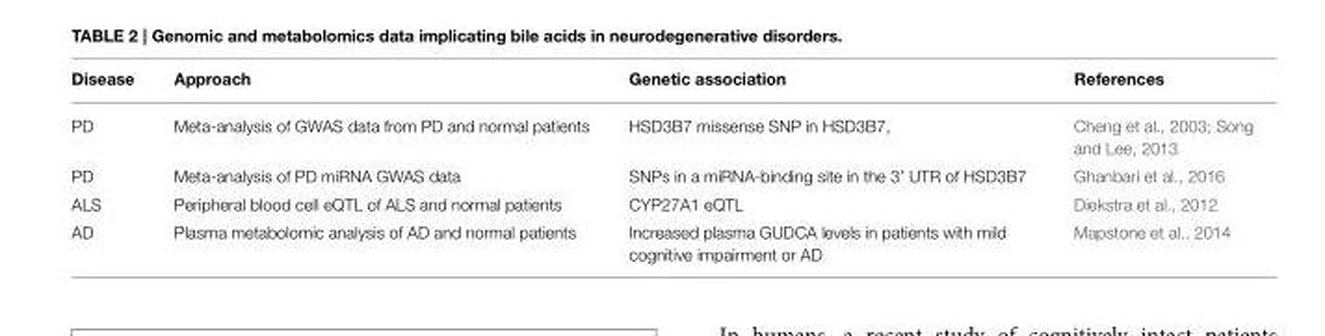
<table><thead><tr><td>Disease</td><td>Approach</td><td>Genetic association</td><td>References</td></tr></thead><tbody><tr><td>PD</td><td>Meta-analysis of GWAS data from PD and normal patients</td><td>HSD3B7 missense SNP in HSD3B7,</td><td>Cheng et al., 2003; Song and Lee, 2013</td></tr><tr><td>PD</td><td>Meta-analysis of PD miRNA GWAS data</td><td>SNPs in a miRNA-binding site in the 3’ UTR of HSD3B7</td><td>Ghanbari et al., 2016</td></tr><tr><td>ALS</td><td>Peripheral blood cell eQTL of ALS and normal patients</td><td>CYP27A1 eQTL</td><td>Diekstra et al., 2012</td></tr><tr><td>AD</td><td>Plasma metabolomic analysis of AD and normal patients</td><td>Increased plasma GUDCA levels in patients with mild cognitive impairment or AD</td><td>Mapstone et al., 2014</td></tr></tbody></table>